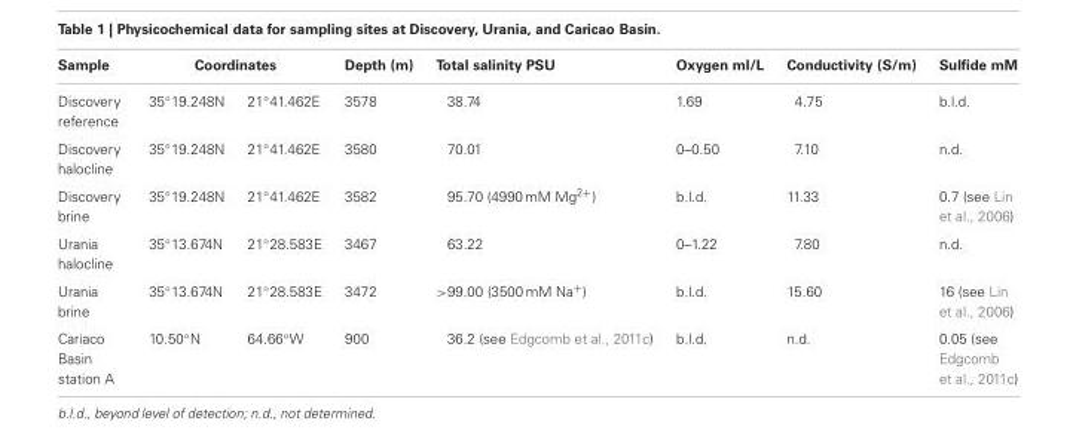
<table><thead><tr><td rowspan="2">Sample Discovery reference</td><td colspan="2">Coordinates</td><td rowspan="2">Depth (m) 3578</td><td rowspan="2">Total salinity PSU 38.74</td><td rowspan="2">Oxygen ml/L 1.69</td><td rowspan="2">Conductivity (S/m) 4.75</td><td rowspan="2">Sulfide mM b.l.d.</td></tr><tr><td>35◦19.248N</td><td>21◦41.462E</td></tr></thead><tbody><tr><td>Discovery halocline</td><td>35◦19.248N</td><td>21◦41.462E</td><td>3580</td><td>70.01</td><td>0–0.50</td><td>7.10</td><td>n.d.</td></tr><tr><td>Discovery brine</td><td>35◦19.248N</td><td>21◦41.462E</td><td>3582</td><td>95.70 (4990 mM Mg<sup>2+</sup>)</td><td>b.l.d.</td><td>11.33</td><td>0.7 (see Lin et al., 2006)</td></tr><tr><td>Urania halocline</td><td>35◦13.674N</td><td>21◦28.583E</td><td>3467</td><td>63.22</td><td>0–1.22</td><td>7.80</td><td>n.d.</td></tr><tr><td>Urania brine</td><td>35◦13.674N</td><td>21◦28.583E</td><td>3472</td><td>&gt;99.00 (3500 mM Na<sup>+</sup>)</td><td>b.l.d.</td><td>15.60</td><td>16 (see Lin et al., 2006)</td></tr><tr><td>Cariaco Basin station A</td><td>10.50◦N</td><td>64.66◦W</td><td>900</td><td>36.2 (see Edgcomb et al., 2011c)</td><td>b.l.d.</td><td>n.d.</td><td>0.05 (see Edgcomb et al., 2011c)</td></tr></tbody></table>